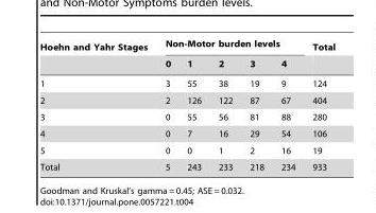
<table><thead><tr><td rowspan="2">Hoehn and Yahr Stages</td><td colspan="5">Non-Motor burden levels</td><td rowspan="2">Total</td></tr><tr><td>0</td><td>1</td><td>2</td><td>3</td><td>4</td></tr></thead><tbody><tr><td>1</td><td>3</td><td>55</td><td>38</td><td>19</td><td>9</td><td>124</td></tr><tr><td>2</td><td>2</td><td>126</td><td>122</td><td>87</td><td>67</td><td>404</td></tr><tr><td>3</td><td>0</td><td>55</td><td>56</td><td>81</td><td>88</td><td>280</td></tr><tr><td>4</td><td>0</td><td>7</td><td>16</td><td>29</td><td>54</td><td>106</td></tr><tr><td>5</td><td>0</td><td>0</td><td>1</td><td>2</td><td>16</td><td>19</td></tr><tr><td>Total</td><td>5</td><td>243</td><td>233</td><td>218</td><td>234</td><td>933</td></tr></tbody></table>